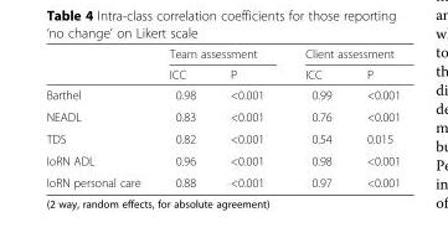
<table><thead><tr><td rowspan="2"></td><td colspan="2">Team assessment</td><td colspan="2">Client assessment</td></tr><tr><td>ICC</td><td>P</td><td>ICC</td><td>P</td></tr></thead><tbody><tr><td>Barthel</td><td>0.98</td><td>&lt;0.001</td><td>0.99</td><td>&lt;0.001</td></tr><tr><td>NEADL</td><td>0.83</td><td>&lt;0.001</td><td>0.76</td><td>&lt;0.001</td></tr><tr><td>TDS</td><td>0.82</td><td>&lt;0.001</td><td>0.54</td><td>0.015</td></tr><tr><td>IoRN ADL</td><td>0.96</td><td>&lt;0.001</td><td>0.98</td><td>&lt;0.001</td></tr><tr><td>IoRN personal care</td><td>0.88</td><td>&lt;0.001</td><td>0.97</td><td>&lt;0.001</td></tr></tbody></table>